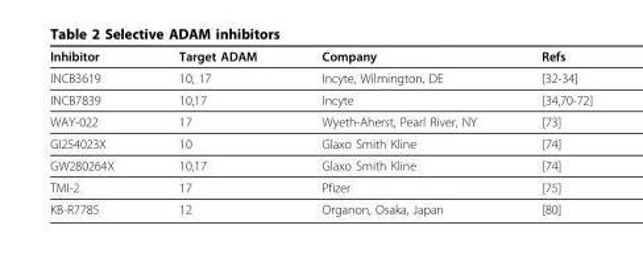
<table><thead><tr><td>Inhibitor</td><td>Target ADAM</td><td>Company</td><td>Refs</td></tr></thead><tbody><tr><td>INCB3619</td><td>10, 17</td><td>Incyte, Wilmington, DE</td><td>[32-34]</td></tr><tr><td>INCB7839</td><td>10,17</td><td>Incyte</td><td>[34,70-72]</td></tr><tr><td>WAY-022</td><td>17</td><td>Wyeth-Aherst, Pearl River, NY</td><td>[73]</td></tr><tr><td>GI254023X</td><td>10</td><td>Glaxo Smith Kline</td><td>[74]</td></tr><tr><td>GW280264X</td><td>10,17</td><td>Glaxo Smith Kline</td><td>[74]</td></tr><tr><td>TMI-2</td><td>17</td><td>Pfizer</td><td>[75]</td></tr><tr><td>KB-R7785</td><td>12</td><td>Organon, Osaka, Japan</td><td>[80]</td></tr></tbody></table>